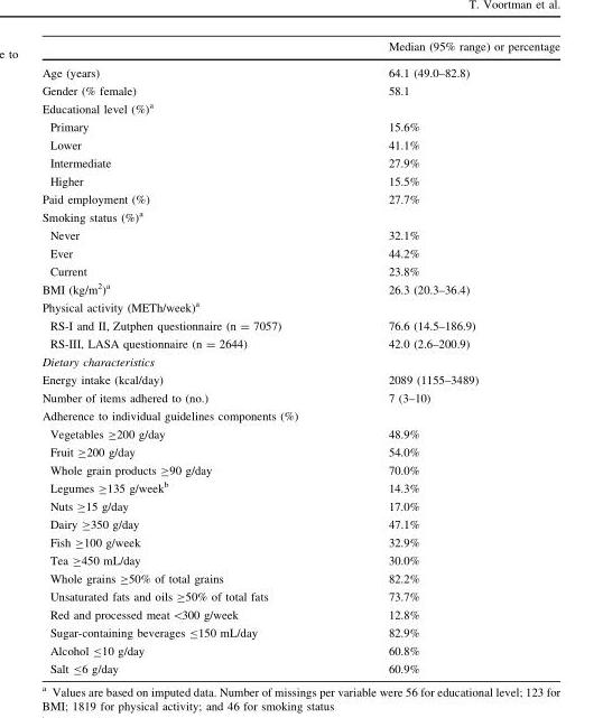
<table><thead><tr><td></td><td>Median (95% range) or percentage</td></tr></thead><tbody><tr><td>Age (years)</td><td>64.1 (49.0–82.8)</td></tr><tr><td>Gender (% female)</td><td>58.1</td></tr><tr><td colspan="2">Educational level (%)<sup>a</sup></td></tr><tr><td>Primary</td><td>15.6%</td></tr><tr><td>Lower</td><td>41.1%</td></tr><tr><td>Intermediate</td><td>27.9%</td></tr><tr><td>Higher</td><td>15.5%</td></tr><tr><td>Paid employment (%)</td><td>27.7%</td></tr><tr><td colspan="2">Smoking status (%)<sup>a</sup></td></tr><tr><td>Never</td><td>32.1%</td></tr><tr><td>Ever</td><td>44.2%</td></tr><tr><td>Current</td><td>23.8%</td></tr><tr><td>BMI (kg/m<sup>2</sup>)<sup>a</sup></td><td>26.3 (20.3–36.4)</td></tr><tr><td colspan="2">Physical activity (METh/week)<sup>a</sup></td></tr><tr><td>RS-I and II, Zutphen questionnaire (n = 7057)</td><td>76.6 (14.5–186.9)</td></tr><tr><td>RS-III, LASA questionnaire (n = 2644)</td><td>42.0 (2.6–200.9)</td></tr><tr><td colspan="2">Dietary characteristics</td></tr><tr><td>Energy intake (kcal/day)</td><td>2089 (1155–3489)</td></tr><tr><td>Number of items adhered to (no.)</td><td>7 (3–10)</td></tr><tr><td colspan="2">Adherence to individual guidelines components (%)</td></tr><tr><td>Vegetables ≥200 g/day</td><td>48.9%</td></tr><tr><td>Fruit ≥200 g/day</td><td>54.0%</td></tr><tr><td>Whole grain products ≥90 g/day</td><td>70.0%</td></tr><tr><td>Legumes ≥135 g/week<sup>b</sup></td><td>14.3%</td></tr><tr><td>Nuts ≥15 g/day</td><td>17.0%</td></tr><tr><td>Dairy ≥350 g/day</td><td>47.1%</td></tr><tr><td>Fish ≥100 g/week</td><td>32.9%</td></tr><tr><td>Tea ≥450 mL/day</td><td>30.0%</td></tr><tr><td>Whole grains ≥50% of total grains</td><td>82.2%</td></tr><tr><td>Unsaturated fats and oils ≥50% of total fats</td><td>73.7%</td></tr><tr><td>Red and processed meat &lt;300 g/week</td><td>12.8%</td></tr><tr><td>Sugar-containing beverages ≤150 mL/day</td><td>82.9%</td></tr><tr><td>Alcohol ≤10 g/day</td><td>60.8%</td></tr><tr><td>Salt ≤6 g/day</td><td>60.9%</td></tr></tbody></table>